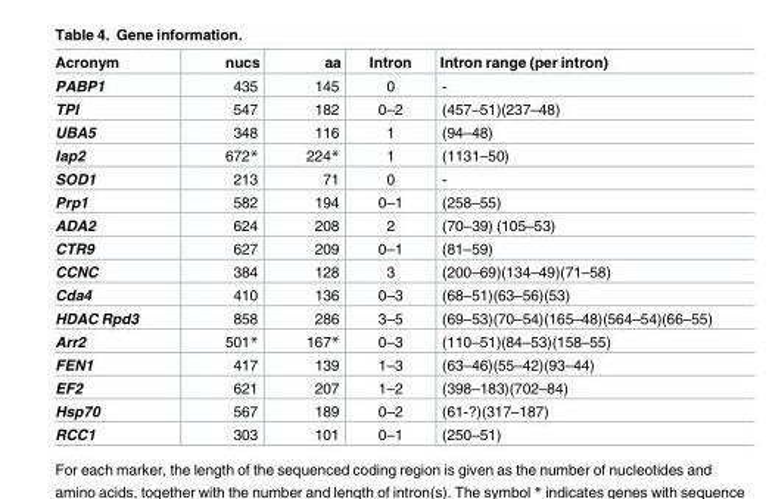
<table><thead><tr><td>Acronym</td><td>nucs</td><td>aa</td><td>Intron</td><td>Intron range (per intron)</td></tr></thead><tbody><tr><td>PABP1</td><td>435</td><td>145</td><td>0</td><td>-</td></tr><tr><td>TPI</td><td>547</td><td>182</td><td>0–2</td><td>(457–51)(237–48)</td></tr><tr><td>UBA5</td><td>348</td><td>116</td><td>1</td><td>(94–48)</td></tr><tr><td>Iap2</td><td>672*</td><td>224*</td><td>1</td><td>(1131–50)</td></tr><tr><td>SOD1</td><td>213</td><td>71</td><td>0</td><td>-</td></tr><tr><td>Prp1</td><td>582</td><td>194</td><td>0–1</td><td>(258–55)</td></tr><tr><td>ADA2</td><td>624</td><td>208</td><td>2</td><td>(70–39) (105–53)</td></tr><tr><td>CTR9</td><td>627</td><td>209</td><td>0–1</td><td>(81–59)</td></tr><tr><td>CCNC</td><td>384</td><td>128</td><td>3</td><td>(200–69)(134–49)(71–58)</td></tr><tr><td>Cda4</td><td>410</td><td>136</td><td>0–3</td><td>(68–51)(63–56)(53)</td></tr><tr><td>HDAC Rpd3</td><td>858</td><td>286</td><td>3–5</td><td>(69–53)(70–54)(165–48)(564–54)(66–55)</td></tr><tr><td>Arr2</td><td>501*</td><td>167*</td><td>0–3</td><td>(110–51)(84–53)(158–55)</td></tr><tr><td>FEN1</td><td>417</td><td>139</td><td>1–3</td><td>(63–46)(55–42)(93–44)</td></tr><tr><td>EF2</td><td>621</td><td>207</td><td>1–2</td><td>(398–183)(702–84)</td></tr><tr><td>Hsp70</td><td>567</td><td>189</td><td>0–2</td><td>(61-?)(317–187)</td></tr><tr><td>RCC1</td><td>303</td><td>101</td><td>0–1</td><td>(250–51)</td></tr></tbody></table>